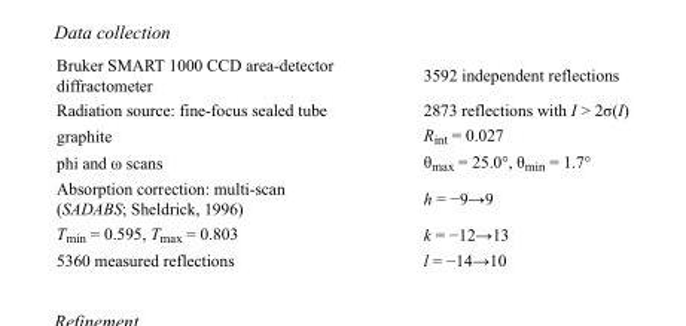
<table><tbody><tr><td>Bruker SMART 1000 CCD area-detector diffractometer</td><td>3592 independent reflections</td></tr><tr><td>Radiation source: fine-focus sealed tube</td><td>2873 reflections with I &gt; 2σ(I)</td></tr><tr><td>graphite</td><td>R<sub>int</sub> = 0.027</td></tr><tr><td>phi and ω scans</td><td>θ<sub>max</sub> = 25.0°, θ<sub>min</sub> = 1.7°</td></tr><tr><td>Absorption correction: multi-scan (SADABS; Sheldrick, 1996)</td><td>h = −9→9</td></tr><tr><td>T<sub>min</sub> = 0.595, T<sub>max</sub> = 0.803</td><td>k = −12→13</td></tr><tr><td>5360 measured reflections</td><td>l = −14→10</td></tr></tbody></table>